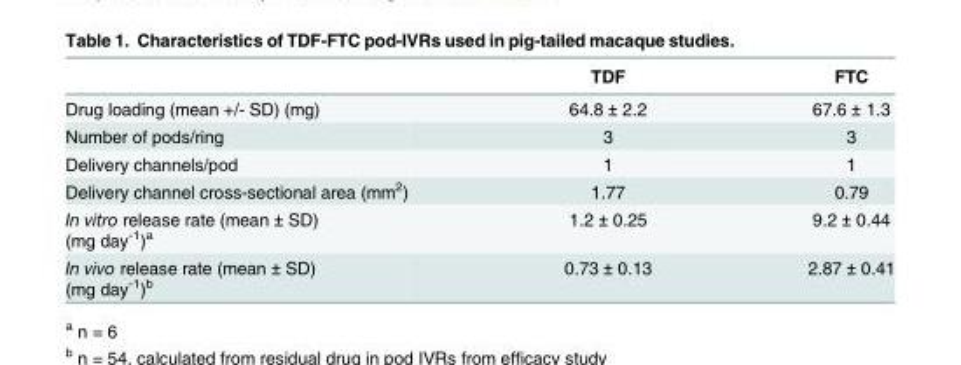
<table><thead><tr><td></td><td>TDF</td><td>FTC</td></tr></thead><tbody><tr><td>Drug loading (mean +/- SD) (mg)</td><td>64.8 ± 2.2</td><td>67.6 ± 1.3</td></tr><tr><td>Number of pods/ring</td><td>3</td><td>3</td></tr><tr><td>Delivery channels/pod</td><td>1</td><td>1</td></tr><tr><td>Delivery channel cross-sectional area (mm<sup>2</sup>)</td><td>1.77</td><td>0.79</td></tr><tr><td>In vitro release rate (mean ± SD) (mg day<sup>-1</sup>)<sup>a</sup></td><td>1.2 ± 0.25</td><td>9.2 ± 0.44</td></tr><tr><td>In vivo release rate (mean ± SD) (mg day<sup>-1</sup>)<sup>b</sup></td><td>0.73 ± 0.13</td><td>2.87 ± 0.41</td></tr></tbody></table>